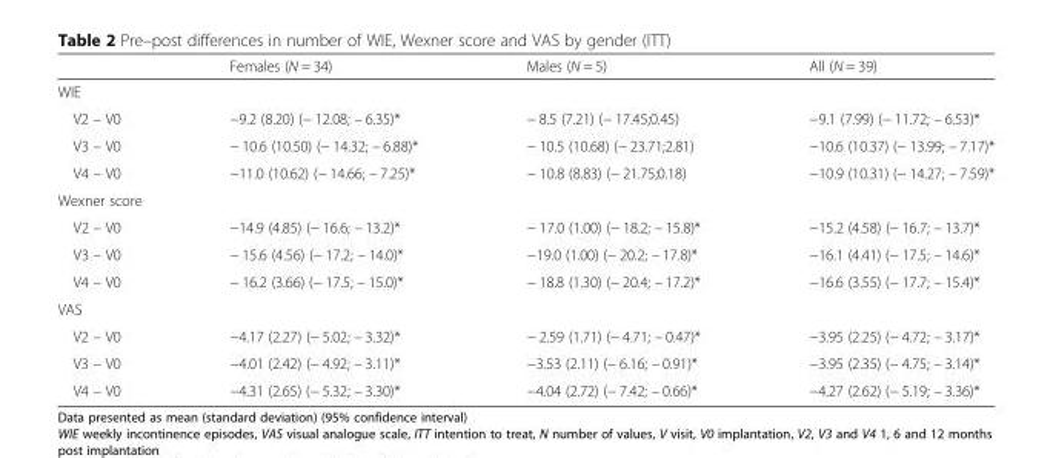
<table><thead><tr><td></td><td>Females (N = 34)</td><td>Males (N = 5)</td><td>All (N = 39)</td></tr></thead><tbody><tr><td colspan="4">WIE</td></tr><tr><td>V2 – V0</td><td>−9.2 (8.20) (− 12.08; – 6.35)*</td><td>− 8.5 (7.21) (− 17.45;0.45)</td><td>−9.1 (7.99) (− 11.72; – 6.53)*</td></tr><tr><td>V3 – V0</td><td>− 10.6 (10.50) (− 14.32; – 6.88)*</td><td>− 10.5 (10.68) (− 23.71;2.81)</td><td>−10.6 (10.37) (− 13.99; – 7.17)*</td></tr><tr><td>V4 – V0</td><td>−11.0 (10.62) (− 14.66; – 7.25)*</td><td>− 10.8 (8.83) (− 21.75;0.18)</td><td>−10.9 (10.31) (− 14.27; – 7.59)*</td></tr><tr><td colspan="4">Wexner score</td></tr><tr><td>V2 – V0</td><td>−14.9 (4.85) (− 16.6; – 13.2)*</td><td>− 17.0 (1.00) (− 18.2; – 15.8)*</td><td>−15.2 (4.58) (− 16.7; – 13.7)*</td></tr><tr><td>V3 – V0</td><td>− 15.6 (4.56) (− 17.2; – 14.0)*</td><td>−19.0 (1.00) (− 20.2; – 17.8)*</td><td>−16.1 (4.41) (− 17.5; – 14.6)*</td></tr><tr><td>V4 – V0</td><td>− 16.2 (3.66) (− 17.5; – 15.0)*</td><td>− 18.8 (1.30) (− 20.4; – 17.2)*</td><td>−16.6 (3.55) (− 17.7; – 15.4)*</td></tr><tr><td colspan="4">VAS</td></tr><tr><td>V2 – V0</td><td>−4.17 (2.27) (− 5.02; – 3.32)*</td><td>− 2.59 (1.71) (− 4.71; – 0.47)*</td><td>−3.95 (2.25) (− 4.72; – 3.17)*</td></tr><tr><td>V3 – V0</td><td>−4.01 (2.42) (− 4.92; – 3.11)*</td><td>−3.53 (2.11) (− 6.16; – 0.91)*</td><td>−3.95 (2.35) (− 4.75; – 3.14)*</td></tr><tr><td>V4 – V0</td><td>−4.31 (2.65) (− 5.32; – 3.30)*</td><td>−4.04 (2.72) (− 7.42; – 0.66)*</td><td>−4.27 (2.62) (− 5.19; – 3.36)*</td></tr></tbody></table>